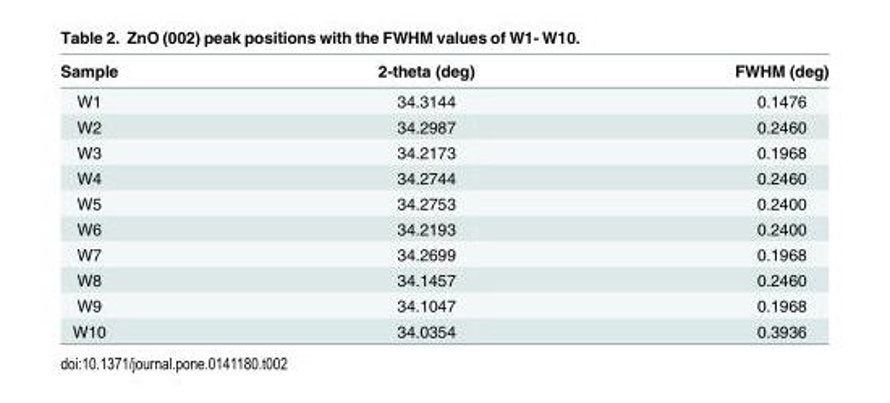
<table><thead><tr><td>Sample</td><td>2-theta (deg)</td><td>FWHM (deg)</td></tr></thead><tbody><tr><td>W1</td><td>34.3144</td><td>0.1476</td></tr><tr><td>W2</td><td>34.2987</td><td>0.2460</td></tr><tr><td>W3</td><td>34.2173</td><td>0.1968</td></tr><tr><td>W4</td><td>34.2744</td><td>0.2460</td></tr><tr><td>W5</td><td>34.2753</td><td>0.2400</td></tr><tr><td>W6</td><td>34.2193</td><td>0.2400</td></tr><tr><td>W7</td><td>34.2699</td><td>0.1968</td></tr><tr><td>W8</td><td>34.1457</td><td>0.2460</td></tr><tr><td>W9</td><td>34.1047</td><td>0.1968</td></tr><tr><td>W10</td><td>34.0354</td><td>0.3936</td></tr></tbody></table>